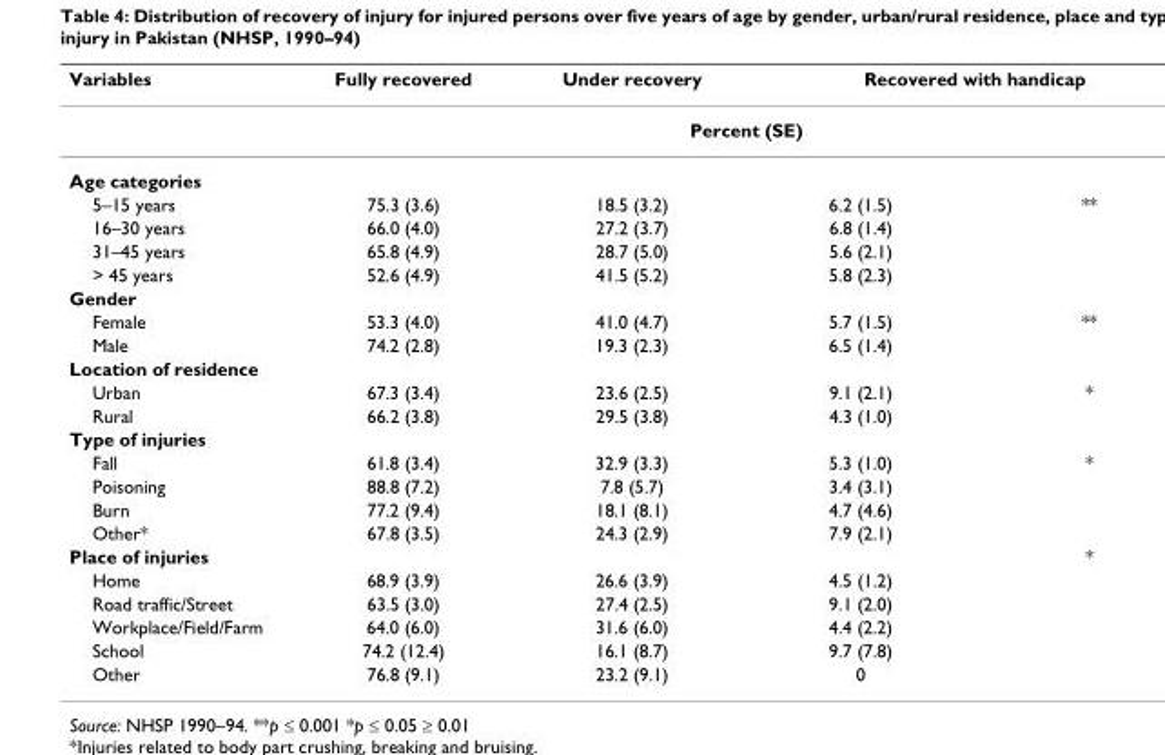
<table><thead><tr><td rowspan="3">Variables Age categories</td><td>Fully recovered</td><td>Under recovery</td><td colspan="2">Recovered with handicap</td></tr><tr><td colspan="4">Percent (SE)</td></tr><tr><td></td><td></td><td></td><td></td></tr></thead><tbody><tr><td>5–15 years</td><td>75.3 (3.6)</td><td>18.5 (3.2)</td><td>6.2 (1.5)</td><td>**</td></tr><tr><td>16–30 years</td><td>66.0 (4.0)</td><td>27.2 (3.7)</td><td>6.8 (1.4)</td><td></td></tr><tr><td>31–45 years</td><td>65.8 (4.9)</td><td>28.7 (5.0)</td><td>5.6 (2.1)</td><td></td></tr><tr><td>&gt; 45 years</td><td>52.6 (4.9)</td><td>41.5 (5.2)</td><td>5.8 (2.3)</td><td></td></tr><tr><td colspan="5">Gender</td></tr><tr><td>Female</td><td>53.3 (4.0)</td><td>41.0 (4.7)</td><td>5.7 (1.5)</td><td>**</td></tr><tr><td>Male</td><td>74.2 (2.8)</td><td>19.3 (2.3)</td><td>6.5 (1.4)</td><td></td></tr><tr><td colspan="5">Location of residence</td></tr><tr><td>Urban</td><td>67.3 (3.4)</td><td>23.6 (2.5)</td><td>9.1 (2.1)</td><td>*</td></tr><tr><td>Rural</td><td>66.2 (3.8)</td><td>29.5 (3.8)</td><td>4.3 (1.0)</td><td></td></tr><tr><td colspan="5">Type of injuries</td></tr><tr><td>Fall</td><td>61.8 (3.4)</td><td>32.9 (3.3)</td><td>5.3 (1.0)</td><td>*</td></tr><tr><td>Poisoning</td><td>88.8 (7.2)</td><td>7.8 (5.7)</td><td>3.4 (3.1)</td><td></td></tr><tr><td>Burn</td><td>77.2 (9.4)</td><td>18.1 (8.1)</td><td>4.7 (4.6)</td><td></td></tr><tr><td>Other*</td><td>67.8 (3.5)</td><td>24.3 (2.9)</td><td>7.9 (2.1)</td><td></td></tr><tr><td>Place of injuries</td><td></td><td></td><td></td><td>*</td></tr><tr><td>Home</td><td>68.9 (3.9)</td><td>26.6 (3.9)</td><td>4.5 (1.2)</td><td></td></tr><tr><td>Road traffic/Street</td><td>63.5 (3.0)</td><td>27.4 (2.5)</td><td>9.1 (2.0)</td><td></td></tr><tr><td>Workplace/Field/Farm</td><td>64.0 (6.0)</td><td>31.6 (6.0)</td><td>4.4 (2.2)</td><td></td></tr><tr><td>School</td><td>74.2 (12.4)</td><td>16.1 (8.7)</td><td>9.7 (7.8)</td><td></td></tr><tr><td>Other</td><td>76.8 (9.1)</td><td>23.2 (9.1)</td><td>0</td><td></td></tr></tbody></table>